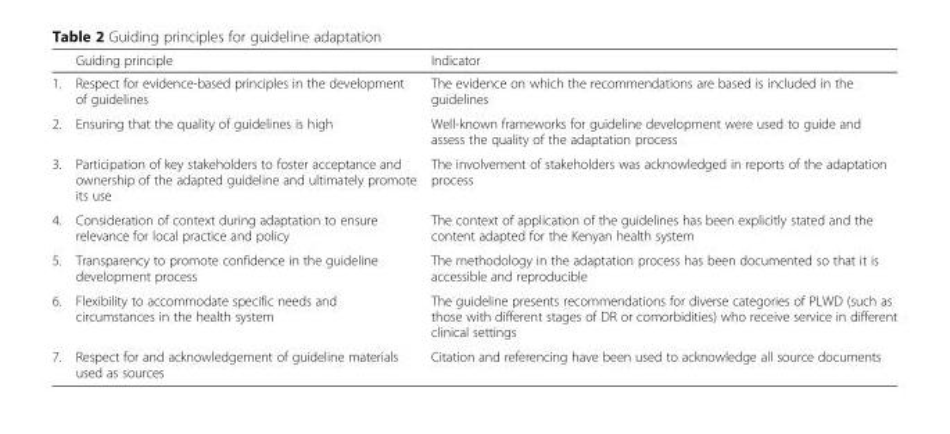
<table><thead><tr><td></td><td>Guiding principle</td><td>Indicator</td></tr></thead><tbody><tr><td>1.</td><td>Respect for evidence-based principles in the development of guidelines</td><td>The evidence on which the recommendations are based is included in the guidelines</td></tr><tr><td>2.</td><td>Ensuring that the quality of guidelines is high</td><td>Well-known frameworks for guideline development were used to guide and assess the quality of the adaptation process</td></tr><tr><td>3.</td><td>Participation of key stakeholders to foster acceptance and ownership of the adapted guideline and ultimately promote its use</td><td>The involvement of stakeholders was acknowledged in reports of the adaptation process</td></tr><tr><td>4.</td><td>Consideration of context during adaptation to ensure relevance for local practice and policy</td><td>The context of application of the guidelines has been explicitly stated and the content adapted for the Kenyan health system</td></tr><tr><td>5.</td><td>Transparency to promote confidence in the guideline development process</td><td>The methodology in the adaptation process has been documented so that it is accessible and reproducible</td></tr><tr><td>6.</td><td>Flexibility to accommodate specific needs and circumstances in the health system</td><td>The guideline presents recommendations for diverse categories of PLWD (such as those with different stages of DR or comorbidities) who receive service in different clinical settings</td></tr><tr><td>7.</td><td>Respect for and acknowledgement of guideline materials used as sources</td><td>Citation and referencing have been used to acknowledge all source documents</td></tr></tbody></table>